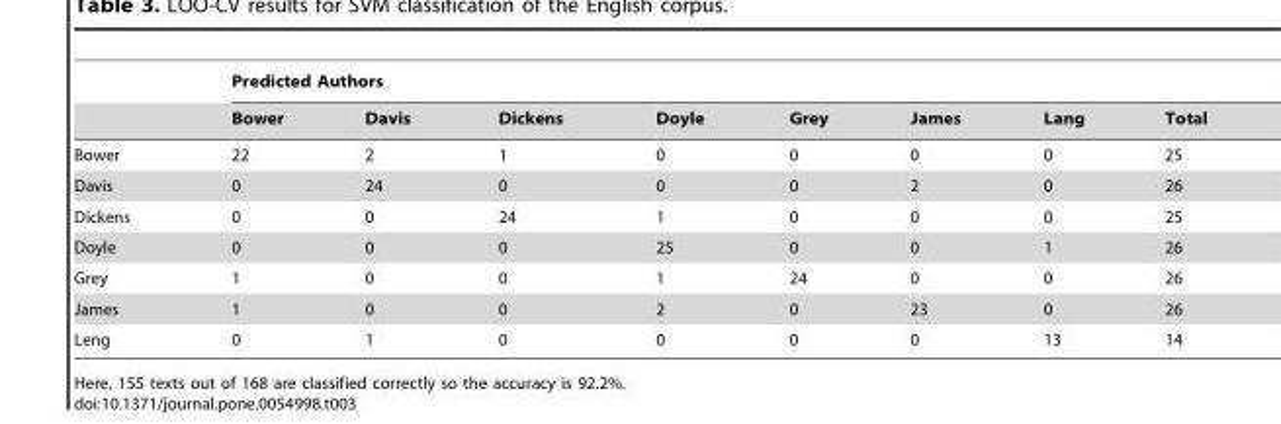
<table><thead><tr><td rowspan="2"></td><td colspan="8">Predicted Authors</td></tr><tr><td>Bower</td><td>Davis</td><td>Dickens</td><td>Doyle</td><td>Grey</td><td>James</td><td>Lang</td><td>Total</td></tr></thead><tbody><tr><td>Bower</td><td>22</td><td>2</td><td>1</td><td>0</td><td>0</td><td>0</td><td>0</td><td>25</td></tr><tr><td>Davis</td><td>0</td><td>24</td><td>0</td><td>0</td><td>0</td><td>2</td><td>0</td><td>26</td></tr><tr><td>Dickens</td><td>0</td><td>0</td><td>24</td><td>1</td><td>0</td><td>0</td><td>0</td><td>25</td></tr><tr><td>Doyle</td><td>0</td><td>0</td><td>0</td><td>25</td><td>0</td><td>0</td><td>1</td><td>26</td></tr><tr><td>Grey</td><td>1</td><td>0</td><td>0</td><td>1</td><td>24</td><td>0</td><td>0</td><td>26</td></tr><tr><td>James</td><td>1</td><td>0</td><td>0</td><td>2</td><td>0</td><td>23</td><td>0</td><td>26</td></tr><tr><td>Leng</td><td>0</td><td>1</td><td>0</td><td>0</td><td>0</td><td>0</td><td>13</td><td>14</td></tr></tbody></table>